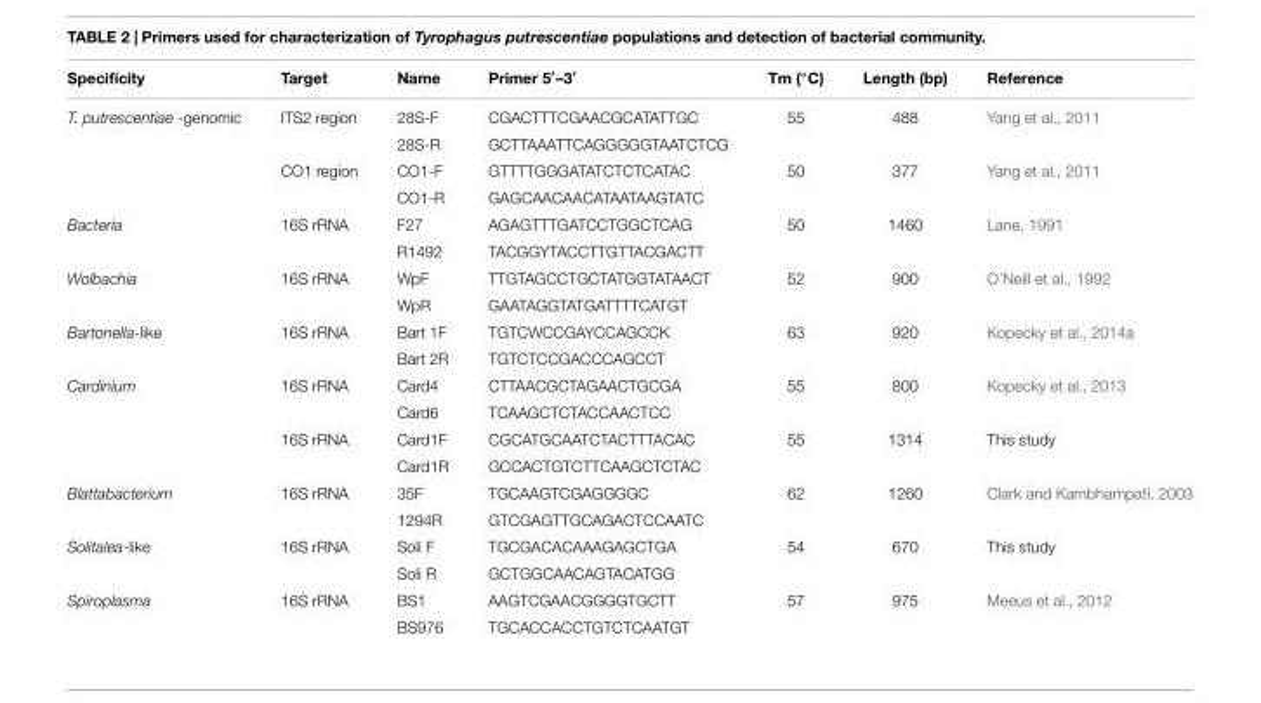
<table><thead><tr><td>Specificity</td><td>Target</td><td>Name</td><td>Primer 5′–3′</td><td>Tm (◦C)</td><td>Length (bp)</td><td>Reference</td></tr></thead><tbody><tr><td rowspan="4">T. putrescentiae -genomic</td><td>ITS2 region</td><td>28S-F</td><td>CGACTTTCGAACGCATATTGC</td><td>55</td><td>488</td><td>Yang et al., 2011</td></tr><tr><td></td><td>28S-R</td><td>GCTTAAATTCAGGGGGTAATCTCG</td><td></td><td></td><td></td></tr><tr><td>CO1 region</td><td>CO1-F</td><td>GTTTTGGGATATCTCTCATAC</td><td>50</td><td>377</td><td>Yang et al., 2011</td></tr><tr><td></td><td>CO1-R</td><td>GAGCAACAACATAATAAGTATC</td><td></td><td></td><td></td></tr><tr><td rowspan="2">Bacteria</td><td>16S rRNA</td><td>F27</td><td>AGAGTTTGATCCTGGCTCAG</td><td>50</td><td>1460</td><td>Lane, 1991</td></tr><tr><td></td><td>R1492</td><td>TACGGYTACCTTGTTACGACTT</td><td></td><td></td><td></td></tr><tr><td rowspan="2">Wolbachia</td><td>16S rRNA</td><td>WpF</td><td>TTGTAGCCTGCTATGGTATAACT</td><td>52</td><td>900</td><td>O’Neill et al., 1992</td></tr><tr><td></td><td>WpR</td><td>GAATAGGTATGATTTTCATGT</td><td></td><td></td><td></td></tr><tr><td rowspan="2">Bartonella-like</td><td>16S rRNA</td><td>Bart 1F</td><td>TGTCWCCGAYCCAGCCK</td><td>63</td><td>920</td><td>Kopecky et al., 2014a</td></tr><tr><td></td><td>Bart 2R</td><td>TGTCTCCGACCCAGCCT</td><td></td><td></td><td></td></tr><tr><td rowspan="4">Cardinium</td><td>16S rRNA</td><td>Card4</td><td>CTTAACGCTAGAACTGCGA</td><td>55</td><td>800</td><td>Kopecky et al., 2013</td></tr><tr><td></td><td>Card6</td><td>TCAAGCTCTACCAACTCC</td><td></td><td></td><td></td></tr><tr><td>16S rRNA</td><td>Card1F</td><td>CGCATGCAATCTACTTTACAC</td><td>55</td><td>1314</td><td>This study</td></tr><tr><td></td><td>Card1R</td><td>GCCACTGTCTTCAAGCTCTAC</td><td></td><td></td><td></td></tr><tr><td rowspan="2">Blattabacterium</td><td>16S rRNA</td><td>35F</td><td>TGCAAGTCGAGGGGC</td><td>62</td><td>1260</td><td>Clark and Kambhampati, 2003</td></tr><tr><td></td><td>1294R</td><td>GTCGAGTTGCAGACTCCAATC</td><td></td><td></td><td></td></tr><tr><td rowspan="2">Solitalea-like</td><td>16S rRNA</td><td>Soli F</td><td>TGCGACACAAAGAGCTGA</td><td>54</td><td>670</td><td>This study</td></tr><tr><td></td><td>Soli R</td><td>GCTGGCAACAGTACATGG</td><td></td><td></td><td></td></tr><tr><td rowspan="2">Spiroplasma</td><td>16S rRNA</td><td>BS1</td><td>AAGTCGAACGGGGTGCTT</td><td>57</td><td>975</td><td>Meeus et al., 2012</td></tr><tr><td></td><td>BS976</td><td>TGCACCACCTGTCTCAATGT</td><td></td><td></td><td></td></tr></tbody></table>